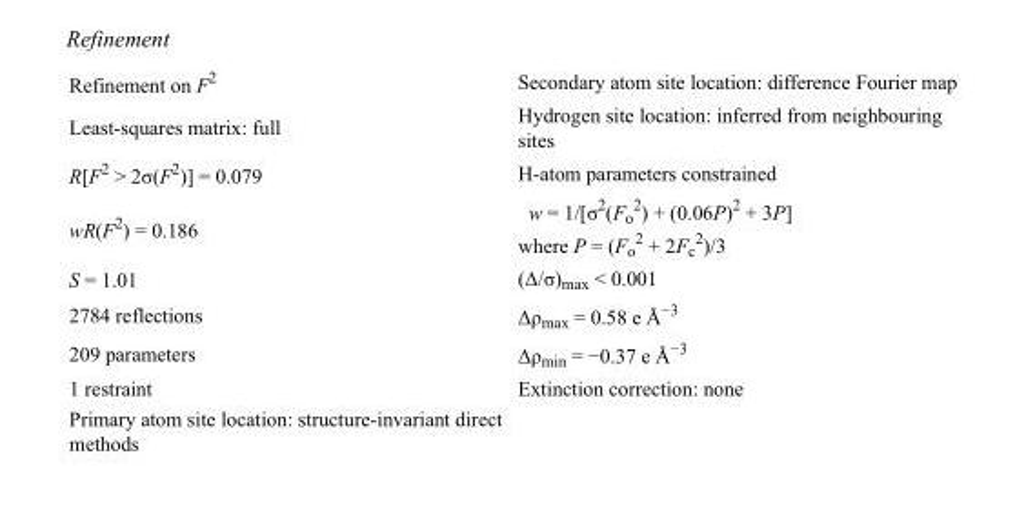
<table><tbody><tr><td>Refinement on F<sup>2</sup></td><td>Secondary atom site location: difference Fourier map</td></tr><tr><td>Least-squares matrix: full</td><td>Hydrogen site location: inferred from neighbouring sites</td></tr><tr><td>R[F<sup>2</sup> &gt; 2σ(F<sup>2</sup>)] = 0.079</td><td>H-atom parameters constrained</td></tr><tr><td>wR(F<sup>2</sup>) = 0.186</td><td>w = 1/[σ<sup>2</sup>(F<sub>o</sub> <sup>2</sup>) + (0.06P)<sup>2</sup> + 3P] where P = (F<sub>o</sub> <sup>2</sup> + 2F<sub>c</sub> <sup>2</sup>)/3</td></tr><tr><td>S = 1.01</td><td>(Δ/σ)<sub>max</sub> &lt; 0.001</td></tr><tr><td>2784 reflections</td><td>Δρ<sub>max</sub> = 0.58 e Å<sup>−3</sup></td></tr><tr><td>209 parameters</td><td>Δρ<sub>min</sub> = −0.37 e Å<sup>−3</sup></td></tr><tr><td>1 restraint</td><td>Extinction correction: none</td></tr><tr><td>Primary atom site location: structure-invariant direct methods</td><td></td></tr></tbody></table>